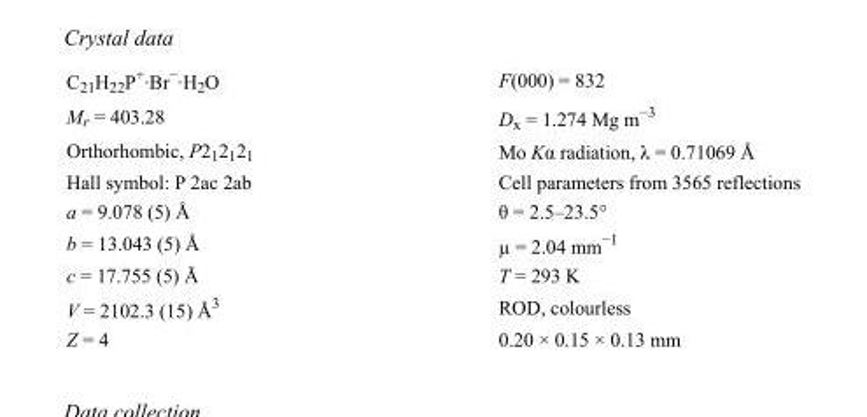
<table><tbody><tr><td>C<sub>21</sub>H<sub>22</sub>P<sup>+</sup>·Br<sup>−</sup>·H<sub>2</sub>O</td><td>F(000) = 832</td></tr><tr><td>M<sub>r</sub> = 403.28</td><td>D<sub>x</sub> = 1.274 Mg m<sup>−3</sup></td></tr><tr><td>Orthorhombic, P2<sub>1</sub>2<sub>1</sub>2<sub>1</sub></td><td>Mo Kα radiation, λ = 0.71069 Å</td></tr><tr><td>Hall symbol: P 2ac 2ab</td><td>Cell parameters from 3565 reflections</td></tr><tr><td>a = 9.078 (5) Å</td><td>θ = 2.5–23.5°</td></tr><tr><td>b = 13.043 (5) Å</td><td>µ = 2.04 mm<sup>−1</sup></td></tr><tr><td>c = 17.755 (5) Å</td><td>T = 293 K</td></tr><tr><td>V = 2102.3 (15) Å<sup>3</sup></td><td>ROD, colourless</td></tr><tr><td>Z = 4</td><td>0.20 × 0.15 × 0.13 mm</td></tr></tbody></table>